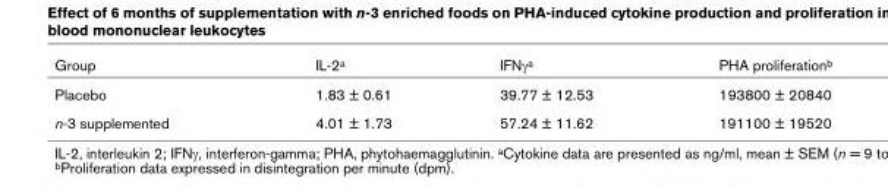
<table><thead><tr><td>Group</td><td>IL-2<sup>a</sup></td><td>IFNγ<sup>a</sup></td><td>PHA proliferation<sup>b</sup></td></tr></thead><tbody><tr><td>Placebo</td><td>1.83 ± 0.61</td><td>39.77 ± 12.53</td><td>193800 ± 20840</td></tr><tr><td>n-3 supplemented</td><td>4.01 ± 1.73</td><td>57.24 ± 11.62</td><td>191100 ± 19520</td></tr></tbody></table>